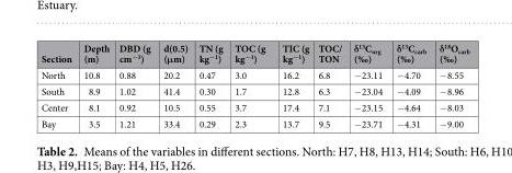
<table><thead><tr><td>Section</td><td>Depth (m)</td><td>DBD (g cm<sup>−3</sup>)</td><td>d(0.5) (μm)</td><td>TN (g kg<sup>−1</sup>)</td><td>TOC (g kg<sup>−1</sup>)</td><td>TIC (g kg<sup>−1</sup>)</td><td>TOC/ TON</td><td>δ<sup>13</sup>C<sub>org</sub> (‰)</td><td>δ<sup>13</sup>C<sub>carb</sub> (‰)</td><td>δ<sup>18</sup>O<sub>carb</sub> (‰)</td></tr></thead><tbody><tr><td>North</td><td>10.8</td><td>0.88</td><td>20.2</td><td>0.47</td><td>3.0</td><td>16.2</td><td>6.8</td><td>−23.11</td><td>−4.70</td><td>−8.55</td></tr><tr><td>South</td><td>8.9</td><td>1.02</td><td>41.4</td><td>0.30</td><td>1.7</td><td>12.8</td><td>6.3</td><td>−23.04</td><td>−4.09</td><td>−8.96</td></tr><tr><td>Center</td><td>8.1</td><td>0.92</td><td>10.5</td><td>0.55</td><td>3.7</td><td>17.4</td><td>7.1</td><td>−23.15</td><td>−4.64</td><td>−8.03</td></tr><tr><td>Bay</td><td>3.5</td><td>1.21</td><td>33.4</td><td>0.29</td><td>2.3</td><td>13.7</td><td>9.5</td><td>−23.71</td><td>−4.31</td><td>−9.00</td></tr></tbody></table>